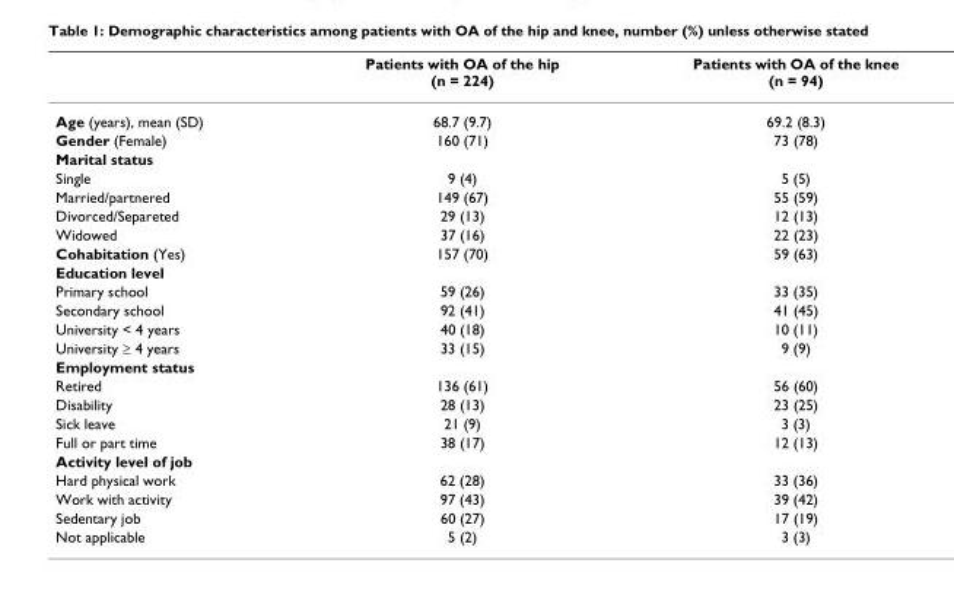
<table><thead><tr><td></td><td>Patients with OA of the hip (n = 224)</td><td>Patients with OA of the knee (n = 94)</td></tr></thead><tbody><tr><td>Age (years), mean (SD)</td><td>68.7 (9.7)</td><td>69.2 (8.3)</td></tr><tr><td>Gender (Female)</td><td>160 (71)</td><td>73 (78)</td></tr><tr><td colspan="3">Marital status</td></tr><tr><td>Single</td><td>9 (4)</td><td>5 (5)</td></tr><tr><td>Married/partnered</td><td>149 (67)</td><td>55 (59)</td></tr><tr><td>Divorced/Separeted</td><td>29 (13)</td><td>12 (13)</td></tr><tr><td>Widowed</td><td>37 (16)</td><td>22 (23)</td></tr><tr><td>Cohabitation (Yes)</td><td>157 (70)</td><td>59 (63)</td></tr><tr><td colspan="3">Education level</td></tr><tr><td>Primary school</td><td>59 (26)</td><td>33 (35)</td></tr><tr><td>Secondary school</td><td>92 (41)</td><td>41 (45)</td></tr><tr><td>University &lt; 4 years</td><td>40 (18)</td><td>10 (11)</td></tr><tr><td>University ≥ 4 years</td><td>33 (15)</td><td>9 (9)</td></tr><tr><td colspan="3">Employment status</td></tr><tr><td>Retired</td><td>136 (61)</td><td>56 (60)</td></tr><tr><td>Disability</td><td>28 (13)</td><td>23 (25)</td></tr><tr><td>Sick leave</td><td>21 (9)</td><td>3 (3)</td></tr><tr><td>Full or part time</td><td>38 (17)</td><td>12 (13)</td></tr><tr><td colspan="3">Activity level of job</td></tr><tr><td>Hard physical work</td><td>62 (28)</td><td>33 (36)</td></tr><tr><td>Work with activity</td><td>97 (43)</td><td>39 (42)</td></tr><tr><td>Sedentary job</td><td>60 (27)</td><td>17 (19)</td></tr><tr><td>Not applicable</td><td>5 (2)</td><td>3 (3)</td></tr></tbody></table>